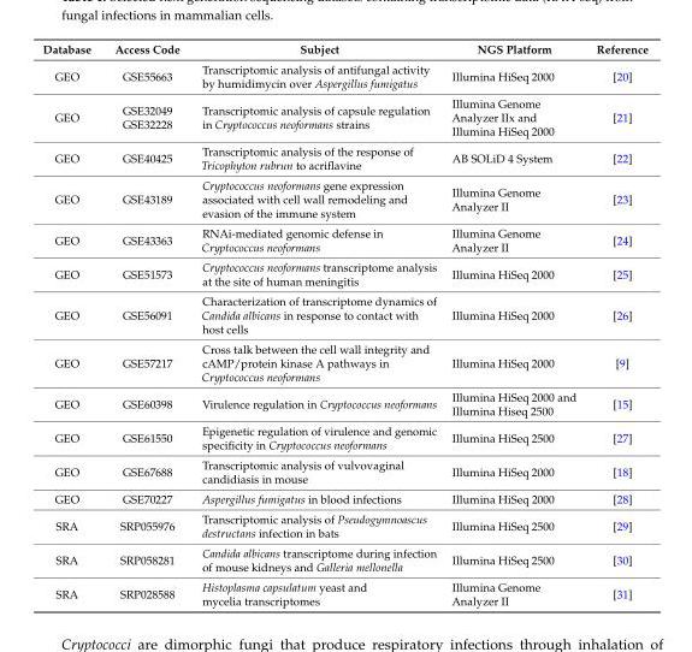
<table><thead><tr><td>Database</td><td>Access Code</td><td>Subject</td><td>NGS Platform</td><td>Reference</td></tr></thead><tbody><tr><td>GEO</td><td>GSE55663</td><td>Transcriptomic analysis of antifungal activity by humidimycin over Aspergillus fumigatus</td><td>Illumina HiSeq 2000</td><td>[20]</td></tr><tr><td>GEO</td><td>GSE32049 GSE32228</td><td>Transcriptomic analysis of capsule regulation in Cryptococcus neoformans strains</td><td>Illumina Genome Analyzer IIx and Illumina HiSeq 2000</td><td>[21]</td></tr><tr><td>GEO</td><td>GSE40425</td><td>Transcriptomic analysis of the response of Tricophyton rubrun to acriflavine</td><td>AB SOLiD 4 System</td><td>[22]</td></tr><tr><td>GEO</td><td>GSE43189</td><td>Cryptococcus neoformans gene expression associated with cell wall remodeling and evasion of the immune system</td><td>Illumina Genome Analyzer II</td><td>[23]</td></tr><tr><td>GEO</td><td>GSE43363</td><td>RNAi-mediated genomic defense in Cryptococcus neoformans</td><td>Illumina Genome Analyzer II</td><td>[24]</td></tr><tr><td>GEO</td><td>GSE51573</td><td>Cryptococcus neoformans transcriptome analysis at the site of human meningitis</td><td>Illumina HiSeq 2000</td><td>[25]</td></tr><tr><td>GEO</td><td>GSE56091</td><td>Characterization of transcriptome dynamics of Candida albicans in response to contact with host cells</td><td>Illumina HiSeq 2000</td><td>[26]</td></tr><tr><td>GEO</td><td>GSE57217</td><td>Cross talk between the cell wall integrity and cAMP/protein kinase A pathways in Cryptococcus neoformans</td><td>Illumina HiSeq 2000</td><td>[9]</td></tr><tr><td>GEO</td><td>GSE60398</td><td>Virulence regulation in Cryptococcus neoformans</td><td>Illumina HiSeq 2000 and Illumina Hiseq 2500</td><td>[15]</td></tr><tr><td>GEO</td><td>GSE61550</td><td>Epigenetic regulation of virulence and genomic specificity in Cryptococcus neoformans</td><td>Illumina HiSeq 2500</td><td>[27]</td></tr><tr><td>GEO</td><td>GSE67688</td><td>Transcriptomic analysis of vulvovaginal candidiasis in mouse</td><td>Illumina HiSeq 2000</td><td>[18]</td></tr><tr><td>GEO</td><td>GSE70227</td><td>Aspergillus fumigatus in blood infections</td><td>Illumina HiSeq 2000</td><td>[28]</td></tr><tr><td>SRA</td><td>SRP055976</td><td>Transcriptomic analysis of Pseudogymnoascus destructans infection in bats</td><td>Illumina HiSeq 2500</td><td>[29]</td></tr><tr><td>SRA</td><td>SRP058281</td><td>Candida albicans transcriptome during infection of mouse kidneys and Galleria mellonella</td><td>Illumina HiSeq 2500</td><td>[30]</td></tr><tr><td>SRA</td><td>SRP028588</td><td>Histoplasma capsulatum yeast and mycelia transcriptomes</td><td>Illumina Genome Analyzer II</td><td>[31]</td></tr></tbody></table>